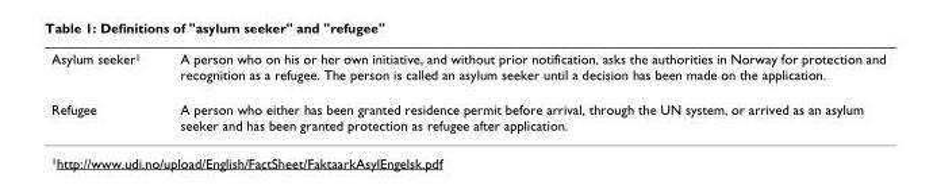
<table><tbody><tr><td>Asylum seeker<sup>1</sup></td><td>A person who on his or her own initiative, and without prior notification, asks the authorities in Norway for protection and recognition as a refugee. The person is called an asylum seeker until a decision has been made on the application.</td></tr><tr><td>Refugee</td><td>A person who either has been granted residence permit before arrival, through the UN system, or arrived as an asylum seeker and has been granted protection as refugee after application.</td></tr></tbody></table>